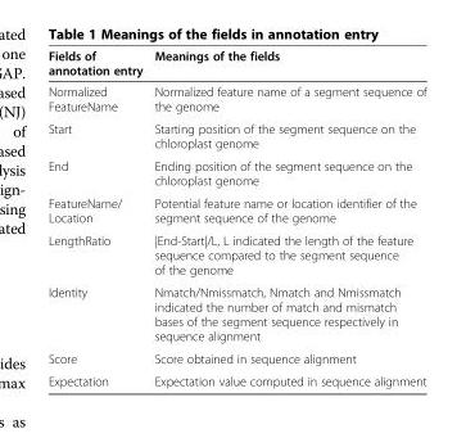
<table><thead><tr><td>Fields of annotation entry</td><td>Meanings of the fields</td></tr></thead><tbody><tr><td>Normalized FeatureName</td><td>Normalized feature name of a segment sequence of the genome</td></tr><tr><td>Start</td><td>Starting position of the segment sequence on the chloroplast genome</td></tr><tr><td>End</td><td>Ending position of the segment sequence on the chloroplast genome</td></tr><tr><td>FeatureName/ Location</td><td>Potential feature name or location identifier of the segment sequence of the genome</td></tr><tr><td>LengthRatio</td><td>|End-Start|/L, L indicated the length of the feature sequence compared to the segment sequence of the genome</td></tr><tr><td>Identity</td><td>Nmatch/Nmissmatch, Nmatch and Nmissmatch indicated the number of match and mismatch bases of the segment sequence respectively in sequence alignment</td></tr><tr><td>Score</td><td>Score obtained in sequence alignment</td></tr><tr><td>Expectation</td><td>Expectation value computed in sequence alignment</td></tr></tbody></table>